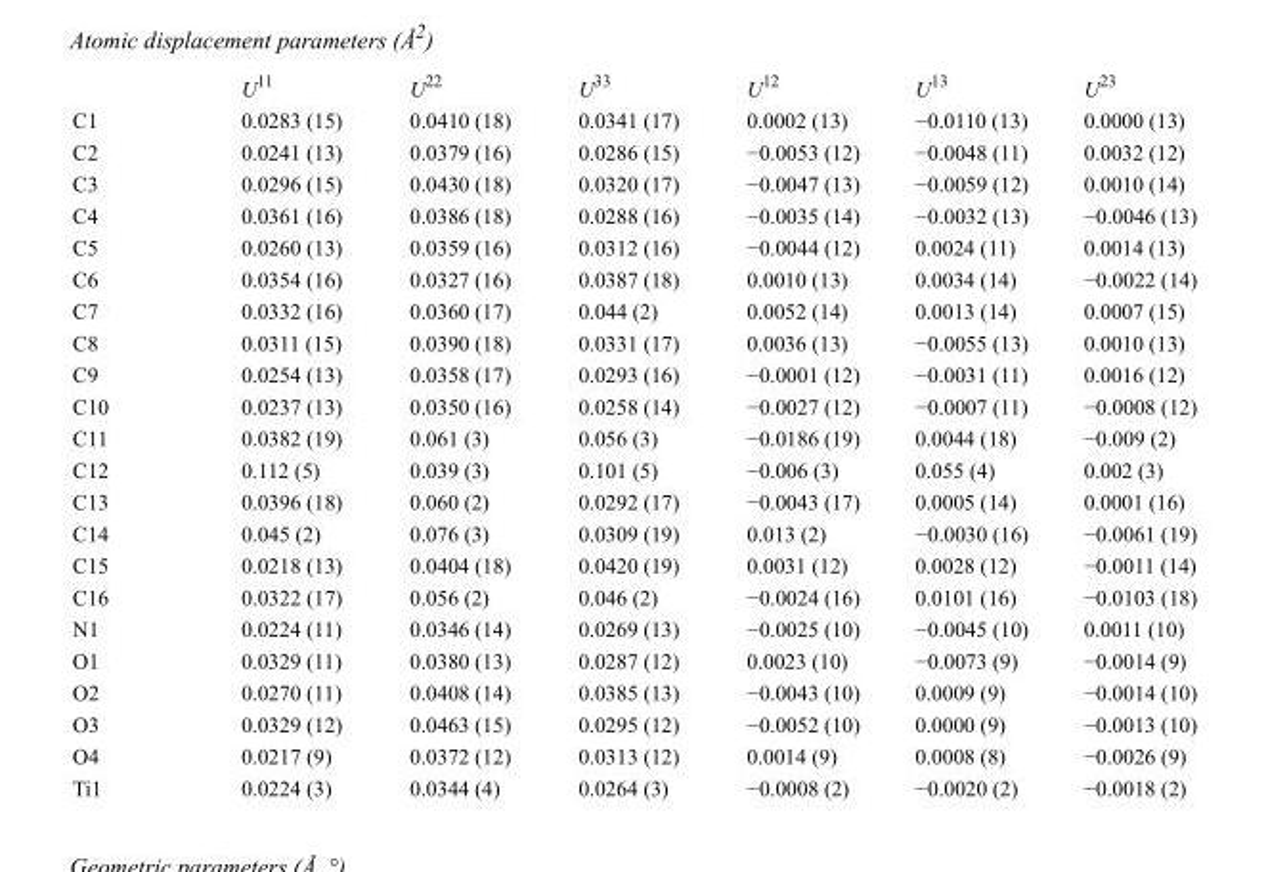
<table><thead><tr><td></td><td>U<sup>11</sup></td><td>U<sup>22</sup></td><td>U<sup>33</sup></td><td>U<sup>12</sup></td><td>U<sup>13</sup></td><td>U<sup>23</sup></td></tr></thead><tbody><tr><td>C1</td><td>0.0283 (15)</td><td>0.0410 (18)</td><td>0.0341 (17)</td><td>0.0002 (13)</td><td>−0.0110 (13)</td><td>0.0000 (13)</td></tr><tr><td>C2</td><td>0.0241 (13)</td><td>0.0379 (16)</td><td>0.0286 (15)</td><td>−0.0053 (12)</td><td>−0.0048 (11)</td><td>0.0032 (12)</td></tr><tr><td>C3</td><td>0.0296 (15)</td><td>0.0430 (18)</td><td>0.0320 (17)</td><td>−0.0047 (13)</td><td>−0.0059 (12)</td><td>0.0010 (14)</td></tr><tr><td>C4</td><td>0.0361 (16)</td><td>0.0386 (18)</td><td>0.0288 (16)</td><td>−0.0035 (14)</td><td>−0.0032 (13)</td><td>−0.0046 (13)</td></tr><tr><td>C5</td><td>0.0260 (13)</td><td>0.0359 (16)</td><td>0.0312 (16)</td><td>−0.0044 (12)</td><td>0.0024 (11)</td><td>0.0014 (13)</td></tr><tr><td>C6</td><td>0.0354 (16)</td><td>0.0327 (16)</td><td>0.0387 (18)</td><td>0.0010 (13)</td><td>0.0034 (14)</td><td>−0.0022 (14)</td></tr><tr><td>C7</td><td>0.0332 (16)</td><td>0.0360 (17)</td><td>0.044 (2)</td><td>0.0052 (14)</td><td>0.0013 (14)</td><td>0.0007 (15)</td></tr><tr><td>C8</td><td>0.0311 (15)</td><td>0.0390 (18)</td><td>0.0331 (17)</td><td>0.0036 (13)</td><td>−0.0055 (13)</td><td>0.0010 (13)</td></tr><tr><td>C9</td><td>0.0254 (13)</td><td>0.0358 (17)</td><td>0.0293 (16)</td><td>−0.0001 (12)</td><td>−0.0031 (11)</td><td>0.0016 (12)</td></tr><tr><td>C10</td><td>0.0237 (13)</td><td>0.0350 (16)</td><td>0.0258 (14)</td><td>−0.0027 (12)</td><td>−0.0007 (11)</td><td>−0.0008 (12)</td></tr><tr><td>C11</td><td>0.0382 (19)</td><td>0.061 (3)</td><td>0.056 (3)</td><td>−0.0186 (19)</td><td>0.0044 (18)</td><td>−0.009 (2)</td></tr><tr><td>C12</td><td>0.112 (5)</td><td>0.039 (3)</td><td>0.101 (5)</td><td>−0.006 (3)</td><td>0.055 (4)</td><td>0.002 (3)</td></tr><tr><td>C13</td><td>0.0396 (18)</td><td>0.060 (2)</td><td>0.0292 (17)</td><td>−0.0043 (17)</td><td>0.0005 (14)</td><td>0.0001 (16)</td></tr><tr><td>C14</td><td>0.045 (2)</td><td>0.076 (3)</td><td>0.0309 (19)</td><td>0.013 (2)</td><td>−0.0030 (16)</td><td>−0.0061 (19)</td></tr><tr><td>C15</td><td>0.0218 (13)</td><td>0.0404 (18)</td><td>0.0420 (19)</td><td>0.0031 (12)</td><td>0.0028 (12)</td><td>−0.0011 (14)</td></tr><tr><td>C16</td><td>0.0322 (17)</td><td>0.056 (2)</td><td>0.046 (2)</td><td>−0.0024 (16)</td><td>0.0101 (16)</td><td>−0.0103 (18)</td></tr><tr><td>N1</td><td>0.0224 (11)</td><td>0.0346 (14)</td><td>0.0269 (13)</td><td>−0.0025 (10)</td><td>−0.0045 (10)</td><td>0.0011 (10)</td></tr><tr><td>O1</td><td>0.0329 (11)</td><td>0.0380 (13)</td><td>0.0287 (12)</td><td>0.0023 (10)</td><td>−0.0073 (9)</td><td>−0.0014 (9)</td></tr><tr><td>O2</td><td>0.0270 (11)</td><td>0.0408 (14)</td><td>0.0385 (13)</td><td>−0.0043 (10)</td><td>0.0009 (9)</td><td>−0.0014 (10)</td></tr><tr><td>O3</td><td>0.0329 (12)</td><td>0.0463 (15)</td><td>0.0295 (12)</td><td>−0.0052 (10)</td><td>0.0000 (9)</td><td>−0.0013 (10)</td></tr><tr><td>O4</td><td>0.0217 (9)</td><td>0.0372 (12)</td><td>0.0313 (12)</td><td>0.0014 (9)</td><td>0.0008 (8)</td><td>−0.0026 (9)</td></tr><tr><td>Ti1</td><td>0.0224 (3)</td><td>0.0344 (4)</td><td>0.0264 (3)</td><td>−0.0008 (2)</td><td>−0.0020 (2)</td><td>−0.0018 (2)</td></tr></tbody></table>